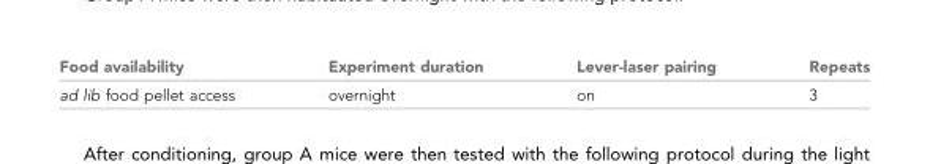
<table><thead><tr><td>Food availability</td><td>Experiment duration</td><td>Lever-laser pairing</td><td>Repeats</td></tr></thead><tbody><tr><td>ad lib food pellet access</td><td>overnight</td><td>on</td><td>3</td></tr></tbody></table>